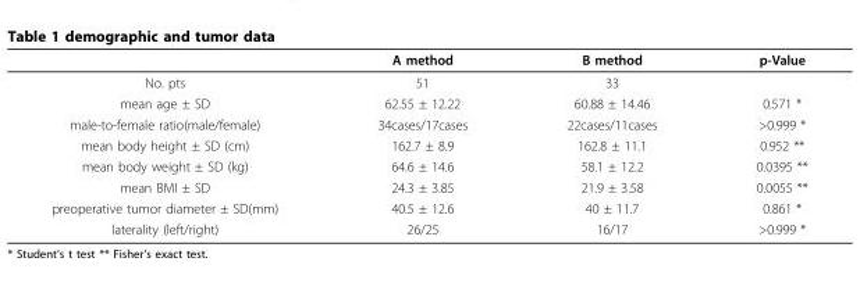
<table><thead><tr><td></td><td>A method</td><td>B method</td><td>p-Value</td></tr></thead><tbody><tr><td>No. pts</td><td>51</td><td>33</td><td></td></tr><tr><td>mean age ± SD</td><td>62.55 ± 12.22</td><td>60.88 ± 14.46</td><td>0.571 *</td></tr><tr><td>male-to-female ratio(male/female)</td><td>34cases/17cases</td><td>22cases/11cases</td><td>&gt;0.999 *</td></tr><tr><td>mean body height ± SD (cm)</td><td>162.7 ± 8.9</td><td>162.8 ± 11.1</td><td>0.952 **</td></tr><tr><td>mean body weight ± SD (kg)</td><td>64.6 ± 14.6</td><td>58.1 ± 12.2</td><td>0.0395 **</td></tr><tr><td>mean BMI ± SD</td><td>24.3 ± 3.85</td><td>21.9 ± 3.58</td><td>0.0055 **</td></tr><tr><td>preoperative tumor diameter ± SD(mm)</td><td>40.5 ± 12.6</td><td>40 ± 11.7</td><td>0.861 *</td></tr><tr><td>laterality (left/right)</td><td>26/25</td><td>16/17</td><td>&gt;0.999 *</td></tr></tbody></table>